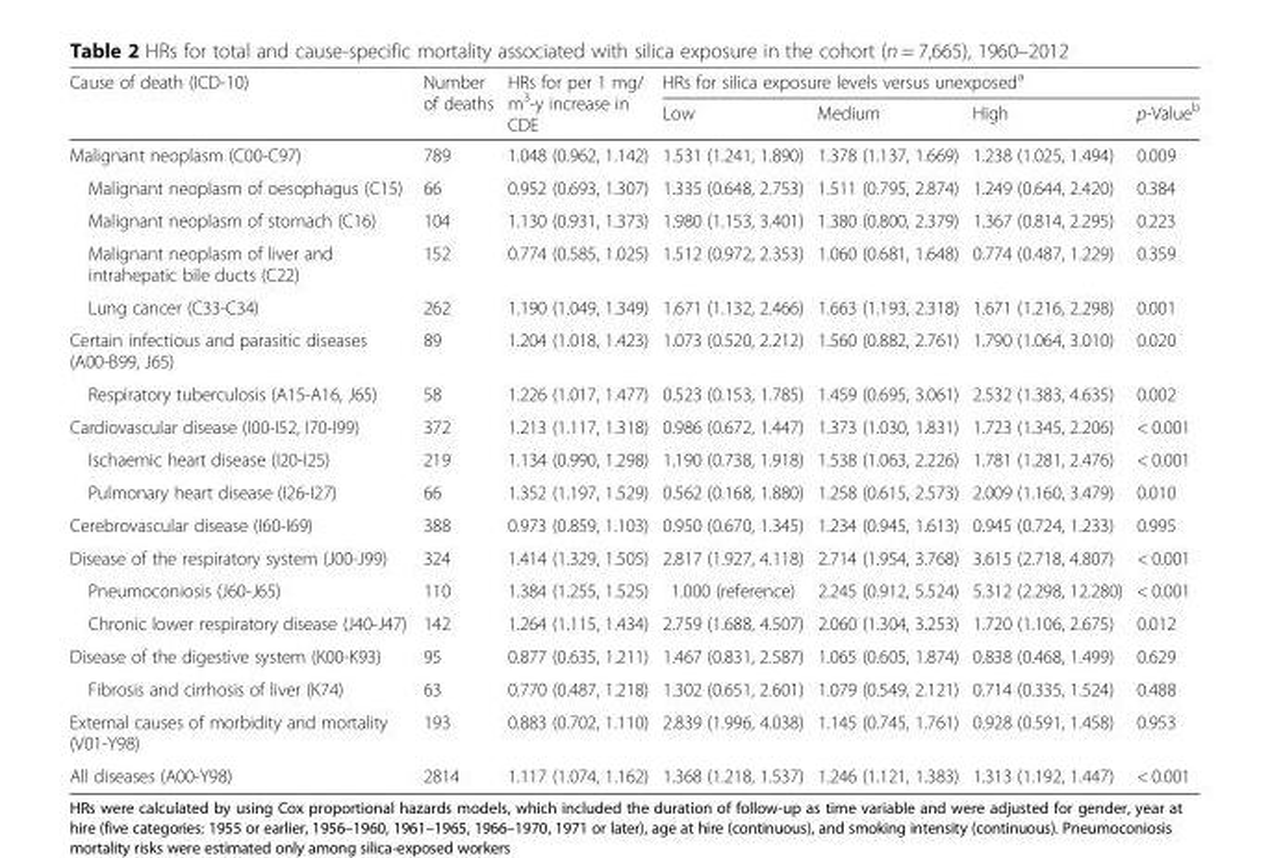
<table><thead><tr><td rowspan="2">Cause of death (ICD-10)</td><td rowspan="2">Number of deaths</td><td rowspan="2">HRs for per 1 mg/ m<sup>3</sup>-y increase in CDE</td><td colspan="4">HRs for silica exposure levels versus unexposed<sup>a</sup></td></tr><tr><td>Low</td><td>Medium</td><td>High</td><td>p-Value<sup>b</sup></td></tr></thead><tbody><tr><td>Malignant neoplasm (C00-C97)</td><td>789</td><td>1.048 (0.962, 1.142)</td><td>1.531 (1.241, 1.890)</td><td>1.378 (1.137, 1.669)</td><td>1.238 (1.025, 1.494)</td><td>0.009</td></tr><tr><td>Malignant neoplasm of oesophagus (C15)</td><td>66</td><td>0.952 (0.693, 1.307)</td><td>1.335 (0.648, 2.753)</td><td>1.511 (0.795, 2.874)</td><td>1.249 (0.644, 2.420)</td><td>0.384</td></tr><tr><td>Malignant neoplasm of stomach (C16)</td><td>104</td><td>1.130 (0.931, 1.373)</td><td>1.980 (1.153, 3.401)</td><td>1.380 (0.800, 2.379)</td><td>1.367 (0.814, 2.295)</td><td>0.223</td></tr><tr><td>Malignant neoplasm of liver and intrahepatic bile ducts (C22)</td><td>152</td><td>0.774 (0.585, 1.025)</td><td>1.512 (0.972, 2.353)</td><td>1.060 (0.681, 1.648)</td><td>0.774 (0.487, 1.229)</td><td>0.359</td></tr><tr><td>Lung cancer (C33-C34)</td><td>262</td><td>1.190 (1.049, 1.349)</td><td>1.671 (1.132, 2.466)</td><td>1.663 (1.193, 2.318)</td><td>1.671 (1.216, 2.298)</td><td>0.001</td></tr><tr><td>Certain infectious and parasitic diseases (A00-B99, J65)</td><td>89</td><td>1.204 (1.018, 1.423)</td><td>1.073 (0.520, 2.212)</td><td>1.560 (0.882, 2.761)</td><td>1.790 (1.064, 3.010)</td><td>0.020</td></tr><tr><td>Respiratory tuberculosis (A15-A16, J65)</td><td>58</td><td>1.226 (1.017, 1.477)</td><td>0.523 (0.153, 1.785)</td><td>1.459 (0.695, 3.061)</td><td>2.532 (1.383, 4.635)</td><td>0.002</td></tr><tr><td>Cardiovascular disease (I00-I52, I70-I99)</td><td>372</td><td>1.213 (1.117, 1.318)</td><td>0.986 (0.672, 1.447)</td><td>1.373 (1.030, 1.831)</td><td>1.723 (1.345, 2.206)</td><td>&lt; 0.001</td></tr><tr><td>Ischaemic heart disease (I20-I25)</td><td>219</td><td>1.134 (0.990, 1.298)</td><td>1.190 (0.738, 1.918)</td><td>1.538 (1.063, 2.226)</td><td>1.781 (1.281, 2.476)</td><td>&lt; 0.001</td></tr><tr><td>Pulmonary heart disease (I26-I27)</td><td>66</td><td>1.352 (1.197, 1.529)</td><td>0.562 (0.168, 1.880)</td><td>1.258 (0.615, 2.573)</td><td>2.009 (1.160, 3.479)</td><td>0.010</td></tr><tr><td>Cerebrovascular disease (I60-I69)</td><td>388</td><td>0.973 (0.859, 1.103)</td><td>0.950 (0.670, 1.345)</td><td>1.234 (0.945, 1.613)</td><td>0.945 (0.724, 1.233)</td><td>0.995</td></tr><tr><td>Disease of the respiratory system (J00-J99)</td><td>324</td><td>1.414 (1.329, 1.505)</td><td>2.817 (1.927, 4.118)</td><td>2.714 (1.954, 3.768)</td><td>3.615 (2.718, 4.807)</td><td>&lt; 0.001</td></tr><tr><td>Pneumoconiosis (J60-J65)</td><td>110</td><td>1.384 (1.255, 1.525)</td><td>1.000 (reference)</td><td>2.245 (0.912, 5.524)</td><td>5.312 (2.298, 12.280)</td><td>&lt; 0.001</td></tr><tr><td>Chronic lower respiratory disease (J40-J47)</td><td>142</td><td>1.264 (1.115, 1.434)</td><td>2.759 (1.688, 4.507)</td><td>2.060 (1.304, 3.253)</td><td>1.720 (1.106, 2.675)</td><td>0.012</td></tr><tr><td>Disease of the digestive system (K00-K93)</td><td>95</td><td>0.877 (0.635, 1.211)</td><td>1.467 (0.831, 2.587)</td><td>1.065 (0.605, 1.874)</td><td>0.838 (0.468, 1.499)</td><td>0.629</td></tr><tr><td>Fibrosis and cirrhosis of liver (K74)</td><td>63</td><td>0.770 (0.487, 1.218)</td><td>1.302 (0.651, 2.601)</td><td>1.079 (0.549, 2.121)</td><td>0.714 (0.335, 1.524)</td><td>0.488</td></tr><tr><td>External causes of morbidity and mortality (V01-Y98)</td><td>193</td><td>0.883 (0.702, 1.110)</td><td>2.839 (1.996, 4.038)</td><td>1.145 (0.745, 1.761)</td><td>0.928 (0.591, 1.458)</td><td>0.953</td></tr><tr><td>All diseases (A00-Y98)</td><td>2814</td><td>1.117 (1.074, 1.162)</td><td>1.368 (1.218, 1.537)</td><td>1.246 (1.121, 1.383)</td><td>1.313 (1.192, 1.447)</td><td>&lt; 0.001</td></tr></tbody></table>